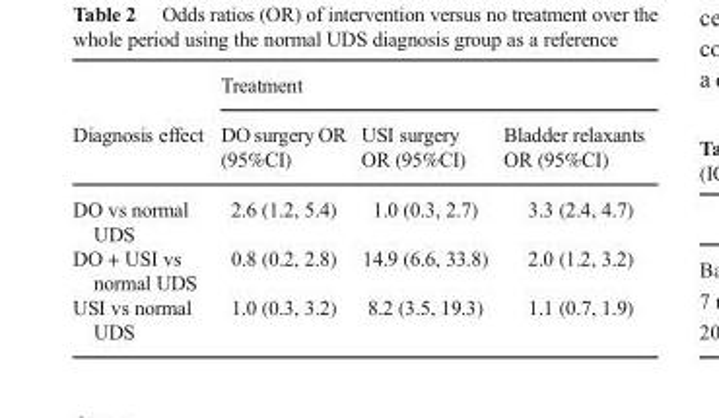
<table><thead><tr><td rowspan="2">Diagnosis effect</td><td colspan="3">Treatment</td></tr><tr><td>DO surgery OR (95%CI)</td><td>USI surgery OR (95%CI)</td><td>Bladder relaxants OR (95%CI)</td></tr></thead><tbody><tr><td>DO vs normal UDS</td><td>2.6 (1.2, 5.4)</td><td>1.0 (0.3, 2.7)</td><td>3.3 (2.4, 4.7)</td></tr><tr><td>DO + USI vs normal UDS</td><td>0.8 (0.2, 2.8)</td><td>14.9 (6.6, 33.8)</td><td>2.0 (1.2, 3.2)</td></tr><tr><td>USI vs normal UDS</td><td>1.0 (0.3, 3.2)</td><td>8.2 (3.5, 19.3)</td><td>1.1 (0.7, 1.9)</td></tr></tbody></table>